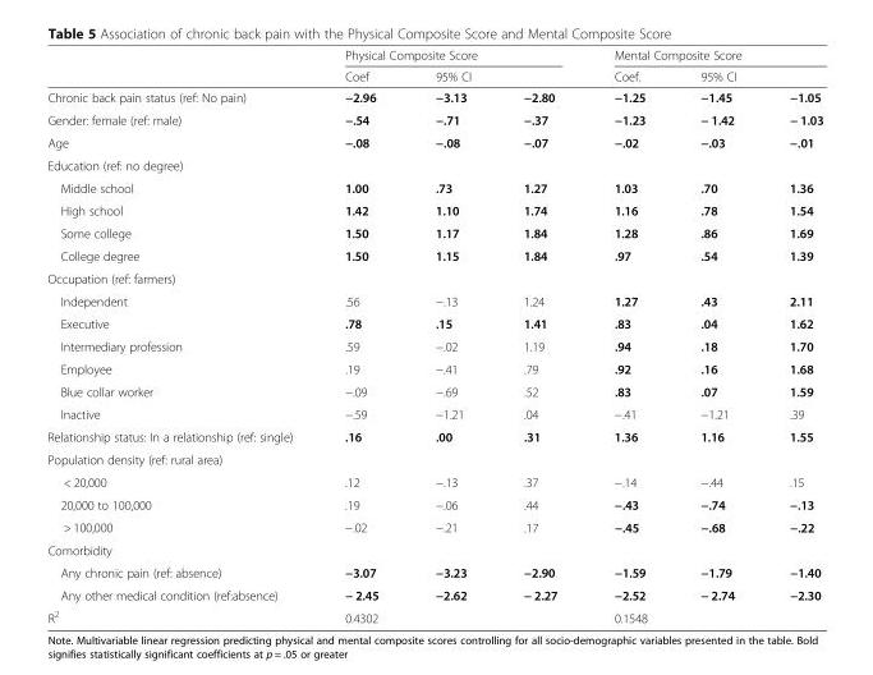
<table><thead><tr><td rowspan="3">Chronic back pain status (ref: No pain)</td><td colspan="3">Physical Composite Score</td><td colspan="3">Mental Composite Score</td></tr><tr><td rowspan="2">Coef −2.96</td><td colspan="2">95% CI</td><td rowspan="2">Coef. −1.25</td><td colspan="2">95% CI</td></tr><tr><td>−3.13</td><td>−2.80</td><td>−1.45</td><td>−1.05</td></tr></thead><tbody><tr><td>Gender: female (ref: male)</td><td>−.54</td><td>−.71</td><td>−.37</td><td>−1.23</td><td>− 1.42</td><td>− 1.03</td></tr><tr><td>Age</td><td>−.08</td><td>−.08</td><td>−.07</td><td>−.02</td><td>−.03</td><td>−.01</td></tr><tr><td colspan="7">Education (ref: no degree)</td></tr><tr><td>Middle school</td><td>1.00</td><td>.73</td><td>1.27</td><td>1.03</td><td>.70</td><td>1.36</td></tr><tr><td>High school</td><td>1.42</td><td>1.10</td><td>1.74</td><td>1.16</td><td>.78</td><td>1.54</td></tr><tr><td>Some college</td><td>1.50</td><td>1.17</td><td>1.84</td><td>1.28</td><td>.86</td><td>1.69</td></tr><tr><td>College degree</td><td>1.50</td><td>1.15</td><td>1.84</td><td>.97</td><td>.54</td><td>1.39</td></tr><tr><td colspan="7">Occupation (ref: farmers)</td></tr><tr><td>Independent</td><td>.56</td><td>−.13</td><td>1.24</td><td>1.27</td><td>.43</td><td>2.11</td></tr><tr><td>Executive</td><td>.78</td><td>.15</td><td>1.41</td><td>.83</td><td>.04</td><td>1.62</td></tr><tr><td>Intermediary profession</td><td>.59</td><td>−.02</td><td>1.19</td><td>.94</td><td>.18</td><td>1.70</td></tr><tr><td>Employee</td><td>.19</td><td>−.41</td><td>.79</td><td>.92</td><td>.16</td><td>1.68</td></tr><tr><td>Blue collar worker</td><td>−.09</td><td>−.69</td><td>.52</td><td>.83</td><td>.07</td><td>1.59</td></tr><tr><td>Inactive</td><td>−.59</td><td>−1.21</td><td>.04</td><td>−.41</td><td>−1.21</td><td>.39</td></tr><tr><td>Relationship status: In a relationship (ref: single)</td><td>.16</td><td>.00</td><td>.31</td><td>1.36</td><td>1.16</td><td>1.55</td></tr><tr><td colspan="7">Population density (ref: rural area)</td></tr><tr><td>&lt; 20,000</td><td>.12</td><td>−.13</td><td>.37</td><td>−.14</td><td>−.44</td><td>.15</td></tr><tr><td>20,000 to 100,000</td><td>.19</td><td>−.06</td><td>.44</td><td>−.43</td><td>−.74</td><td>−.13</td></tr><tr><td>&gt; 100,000</td><td>−.02</td><td>−.21</td><td>.17</td><td>−.45</td><td>−.68</td><td>−.22</td></tr><tr><td colspan="7">Comorbidity</td></tr><tr><td>Any chronic pain (ref: absence)</td><td>−3.07</td><td>−3.23</td><td>−2.90</td><td>−1.59</td><td>−1.79</td><td>−1.40</td></tr><tr><td>Any other medical condition (ref:absence)</td><td>− 2.45</td><td>−2.62</td><td>− 2.27</td><td>−2.52</td><td>− 2.74</td><td>−2.30</td></tr><tr><td>R<sup>2</sup></td><td colspan="3">0.4302</td><td colspan="3">0.1548</td></tr></tbody></table>